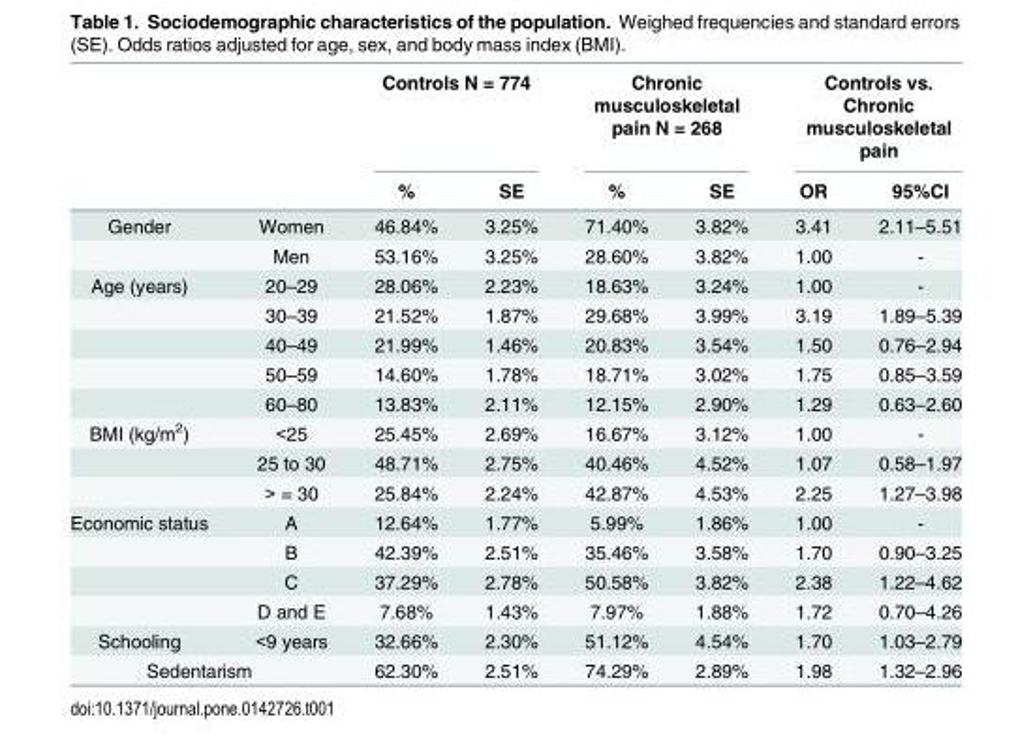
<table><thead><tr><td rowspan="2"></td><td rowspan="2"></td><td colspan="2">Controls N = 774</td><td colspan="2">Chronic musculoskeletal pain N = 268</td><td colspan="2">Controls vs. Chronic musculoskeletal pain</td></tr><tr><td>%</td><td>SE</td><td>%</td><td>SE</td><td>OR</td><td>95%CI</td></tr></thead><tbody><tr><td rowspan="2">Gender</td><td>Women</td><td>46.84%</td><td>3.25%</td><td>71.40%</td><td>3.82%</td><td>3.41</td><td>2.11–5.51</td></tr><tr><td>Men</td><td>53.16%</td><td>3.25%</td><td>28.60%</td><td>3.82%</td><td>1.00</td><td>-</td></tr><tr><td rowspan="5">Age (years)</td><td>20–29</td><td>28.06%</td><td>2.23%</td><td>18.63%</td><td>3.24%</td><td>1.00</td><td>-</td></tr><tr><td>30–39</td><td>21.52%</td><td>1.87%</td><td>29.68%</td><td>3.99%</td><td>3.19</td><td>1.89–5.39</td></tr><tr><td>40–49</td><td>21.99%</td><td>1.46%</td><td>20.83%</td><td>3.54%</td><td>1.50</td><td>0.76–2.94</td></tr><tr><td>50–59</td><td>14.60%</td><td>1.78%</td><td>18.71%</td><td>3.02%</td><td>1.75</td><td>0.85–3.59</td></tr><tr><td>60–80</td><td>13.83%</td><td>2.11%</td><td>12.15%</td><td>2.90%</td><td>1.29</td><td>0.63–2.60</td></tr><tr><td rowspan="3">BMI (kg/m<sup>2</sup>)</td><td>&lt;25</td><td>25.45%</td><td>2.69%</td><td>16.67%</td><td>3.12%</td><td>1.00</td><td>-</td></tr><tr><td>25 to 30</td><td>48.71%</td><td>2.75%</td><td>40.46%</td><td>4.52%</td><td>1.07</td><td>0.58–1.97</td></tr><tr><td>&gt; = 30</td><td>25.84%</td><td>2.24%</td><td>42.87%</td><td>4.53%</td><td>2.25</td><td>1.27–3.98</td></tr><tr><td rowspan="4">Economic status</td><td>A</td><td>12.64%</td><td>1.77%</td><td>5.99%</td><td>1.86%</td><td>1.00</td><td>-</td></tr><tr><td>B</td><td>42.39%</td><td>2.51%</td><td>35.46%</td><td>3.58%</td><td>1.70</td><td>0.90–3.25</td></tr><tr><td>C</td><td>37.29%</td><td>2.78%</td><td>50.58%</td><td>3.82%</td><td>2.38</td><td>1.22–4.62</td></tr><tr><td>D and E</td><td>7.68%</td><td>1.43%</td><td>7.97%</td><td>1.88%</td><td>1.72</td><td>0.70–4.26</td></tr><tr><td>Schooling</td><td>&lt;9 years</td><td>32.66%</td><td>2.30%</td><td>51.12%</td><td>4.54%</td><td>1.70</td><td>1.03–2.79</td></tr><tr><td colspan="2">Sedentarism</td><td>62.30%</td><td>2.51%</td><td>74.29%</td><td>2.89%</td><td>1.98</td><td>1.32–2.96</td></tr></tbody></table>